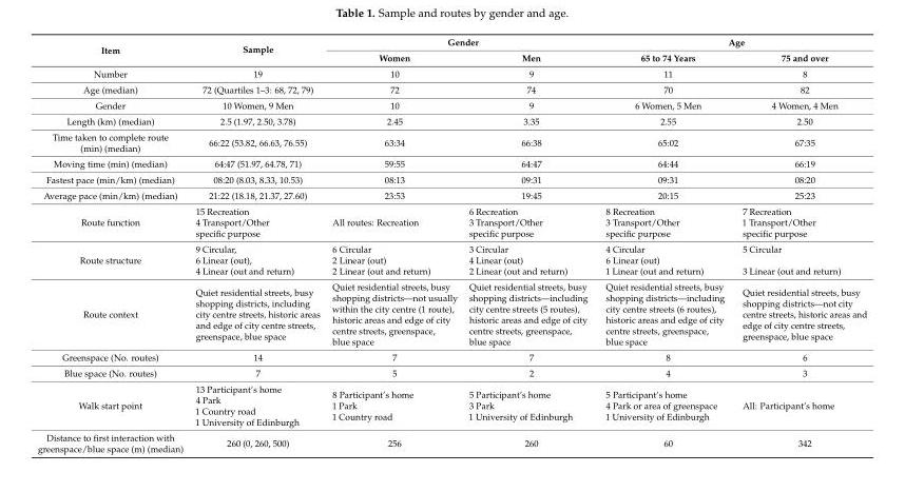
<table><thead><tr><td rowspan="2">Item</td><td rowspan="2">Sample</td><td colspan="2">Gender</td><td colspan="2">Age</td></tr><tr><td>Women</td><td>Men</td><td>65 to 74 Years</td><td>75 and over</td></tr></thead><tbody><tr><td>Number</td><td>19</td><td>10</td><td>9</td><td>11</td><td>8</td></tr><tr><td>Age (median)</td><td>72 (Quartiles 1–3: 68, 72, 79)</td><td>72</td><td>74</td><td>70</td><td>82</td></tr><tr><td>Gender</td><td>10 Women, 9 Men</td><td>10</td><td>9</td><td>6 Women, 5 Men</td><td>4 Women, 4 Men</td></tr><tr><td>Length (km) (median)</td><td>2.5 (1.97, 2.50, 3.78)</td><td>2.45</td><td>3.35</td><td>2.55</td><td>2.50</td></tr><tr><td>Time taken to complete route (min) (median)</td><td>66:22 (53.82, 66.63, 76.55)</td><td>63:34</td><td>66:38</td><td>65:02</td><td>67:35</td></tr><tr><td>Moving time (min) (median)</td><td>64:47 (51.97, 64.78, 71)</td><td>59:55</td><td>64:47</td><td>64:44</td><td>66:19</td></tr><tr><td>Fastest pace (min/km) (median)</td><td>08:20 (8.03, 8.33, 10.53)</td><td>08:13</td><td>09:31</td><td>09:31</td><td>08:20</td></tr><tr><td>Average pace (min/km) (median)</td><td>21:22 (18.18, 21.37, 27.60)</td><td>23:53</td><td>19:45</td><td>20:15</td><td>25:23</td></tr><tr><td>Route function</td><td>15 Recreation 4 Transport/Other specific purpose</td><td>All routes: Recreation</td><td>6 Recreation 3 Transport/Other specific purpose</td><td>8 Recreation 3 Transport/Other specific purpose</td><td>7 Recreation 1 Transport/Other specific purpose</td></tr><tr><td>Route structure</td><td>9 Circular, 6 Linear (out), 4 Linear (out and return)</td><td>6 Circular 2 Linear (out) 2 Linear (out and return)</td><td>3 Circular 4 Linear (out) 2 Linear (out and return)</td><td>4 Circular 6 Linear (out) 1 Linear (out and return)</td><td>5 Circular 3 Linear (out and return)</td></tr><tr><td>Route context</td><td>Quiet residential streets, busy shopping districts, including city centre streets, historic areas and edge of city centre streets, greenspace, blue space</td><td>Quiet residential streets, busy shopping districts—not usually within the city centre (1 route), historic areas and edge of city centre streets, greenspace, blue space</td><td>Quiet residential streets, busy shopping districts—including city centre streets (5 routes), historic areas and edge of city centre streets, greenspace, blue space</td><td>Quiet residential streets, busy shopping districts—including city centre streets (6 routes), historic areas and edge of city centre streets, greenspace, blue space</td><td>Quiet residential streets, busy shopping districts—not city centre streets, historic areas and edge of city centre streets, greenspace, blue space</td></tr><tr><td>Greenspace (No. routes)</td><td>14</td><td>7</td><td>7</td><td>8</td><td>6</td></tr><tr><td>Blue space (No. routes)</td><td>7</td><td>5</td><td>2</td><td>4</td><td>3</td></tr><tr><td>Walk start point</td><td>13 Participant’s home 4 Park 1 Country road 1 University of Edinburgh</td><td>8 Participant’s home 1 Park 1 Country road</td><td>5 Participant’s home 3 Park 1 University of Edinburgh</td><td>5 Participant’s home 4 Park or area of greenspace 1 University of Edinburgh</td><td>All: Participant’s home</td></tr><tr><td>Distance to first interaction with greenspace/blue space (m) (median)</td><td>260 (0, 260, 500)</td><td>256</td><td>260</td><td>60</td><td>342</td></tr></tbody></table>